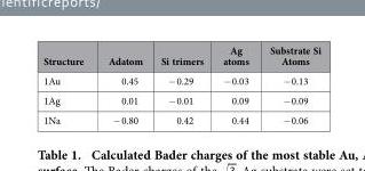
<table><thead><tr><td>Structure</td><td>Adatom</td><td>Si trimers</td><td>Ag atoms</td><td>Substrate Si Atoms</td></tr></thead><tbody><tr><td>1Au</td><td>0.45</td><td>− 0.29</td><td>− 0.03</td><td>− 0.13</td></tr><tr><td>1Ag</td><td>0.01</td><td>− 0.01</td><td>0.09</td><td>− 0.09</td></tr><tr><td>1Na</td><td>− 0.80</td><td>0.42</td><td>0.44</td><td>− 0.06</td></tr></tbody></table>